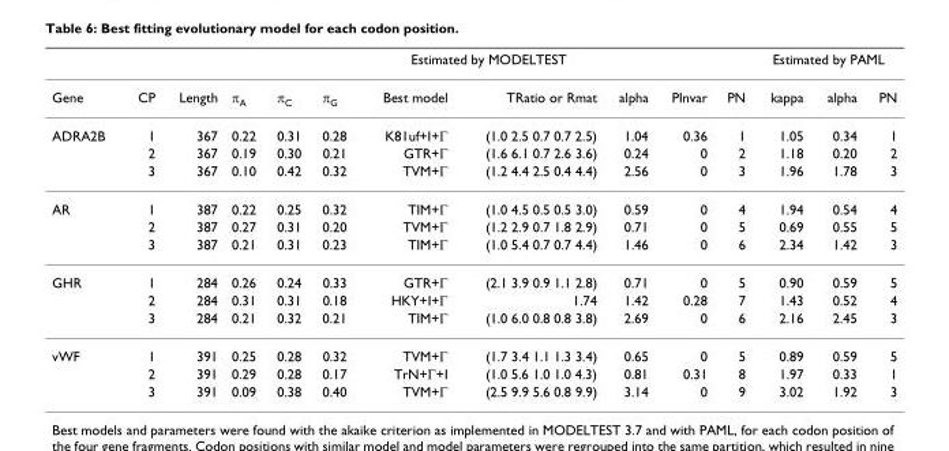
<table><thead><tr><td rowspan="2">Gene</td><td rowspan="2">CP</td><td rowspan="2">Length</td><td colspan="8">Estimated by MODELTEST</td><td colspan="3">Estimated by PAML</td></tr><tr><td>π<sub>A</sub></td><td>π<sub>C</sub></td><td>π<sub>G</sub></td><td>Best model</td><td>TRatio or Rmat</td><td>alpha</td><td>PInvar</td><td>PN</td><td>kappa</td><td>alpha</td><td>PN</td></tr></thead><tbody><tr><td rowspan="3">ADRA2B</td><td>1</td><td>367</td><td>0.22</td><td>0.31</td><td>0.28</td><td>K81uf+I+Γ</td><td>(1.0 2.5 0.7 0.7 2.5)</td><td>1.04</td><td>0.36</td><td>1</td><td>1.05</td><td>0.34</td><td>1</td></tr><tr><td>2</td><td>367</td><td>0.19</td><td>0.30</td><td>0.21</td><td>GTR+Γ</td><td>(1.6 6.1 0.7 2.6 3.6)</td><td>0.24</td><td>0</td><td>2</td><td>1.18</td><td>0.20</td><td>2</td></tr><tr><td>3</td><td>367</td><td>0.10</td><td>0.42</td><td>0.32</td><td>TVM+Γ</td><td>(1.2 4.4 2.5 0.4 4.4)</td><td>2.56</td><td>0</td><td>3</td><td>1.96</td><td>1.78</td><td>3</td></tr><tr><td rowspan="3">AR</td><td>1</td><td>387</td><td>0.22</td><td>0.25</td><td>0.32</td><td>TIM+Γ</td><td>(1.0 4.5 0.5 0.5 3.0)</td><td>0.59</td><td>0</td><td>4</td><td>1.94</td><td>0.54</td><td>4</td></tr><tr><td>2</td><td>387</td><td>0.27</td><td>0.31</td><td>0.20</td><td>TVM+Γ</td><td>(1.2 2.9 0.7 1.8 2.9)</td><td>0.71</td><td>0</td><td>5</td><td>0.69</td><td>0.55</td><td>5</td></tr><tr><td>3</td><td>387</td><td>0.21</td><td>0.31</td><td>0.23</td><td>TIM+Γ</td><td>(1.0 5.4 0.7 0.7 4.4)</td><td>1.46</td><td>0</td><td>6</td><td>2.34</td><td>1.42</td><td>3</td></tr><tr><td rowspan="3">GHR</td><td>1</td><td>284</td><td>0.26</td><td>0.24</td><td>0.33</td><td>GTR+Γ</td><td>(2.1 3.9 0.9 1.1 2.8)</td><td>0.71</td><td>0</td><td>5</td><td>0.90</td><td>0.59</td><td>5</td></tr><tr><td>2</td><td>284</td><td>0.31</td><td>0.31</td><td>0.18</td><td>HKY+I+Γ</td><td>1.74</td><td>1.42</td><td>0.28</td><td>7</td><td>1.43</td><td>0.52</td><td>4</td></tr><tr><td>3</td><td>284</td><td>0.21</td><td>0.32</td><td>0.21</td><td>TIM+Γ</td><td>(1.0 6.0 0.8 0.8 3.8)</td><td>2.69</td><td>0</td><td>6</td><td>2.16</td><td>2.45</td><td>3</td></tr><tr><td rowspan="3">vWF</td><td>1</td><td>391</td><td>0.25</td><td>0.28</td><td>0.32</td><td>TVM+Γ</td><td>(1.7 3.4 1.1 1.3 3.4)</td><td>0.65</td><td>0</td><td>5</td><td>0.89</td><td>0.59</td><td>5</td></tr><tr><td>2</td><td>391</td><td>0.29</td><td>0.28</td><td>0.17</td><td>TrN+Γ+I</td><td>(1.0 5.6 1.0 1.0 4.3)</td><td>0.81</td><td>0.31</td><td>8</td><td>1.97</td><td>0.33</td><td>1</td></tr><tr><td>3</td><td>391</td><td>0.09</td><td>0.38</td><td>0.40</td><td>TVM+Γ</td><td>(2.5 9.9 5.6 0.8 9.9)</td><td>3.14</td><td>0</td><td>9</td><td>3.02</td><td>1.92</td><td>3</td></tr></tbody></table>